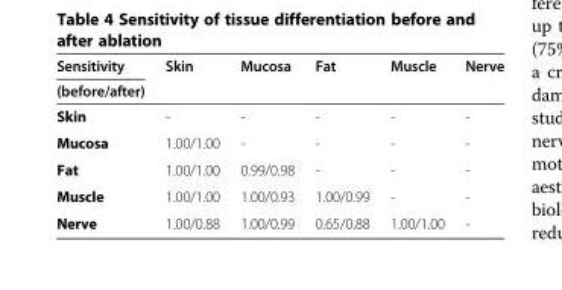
<table><thead><tr><td rowspan="2">Sensitivity (before/after)</td><td rowspan="2">Skin</td><td rowspan="2">Mucosa</td><td rowspan="2">Fat</td><td rowspan="2">Muscle</td><td rowspan="2">Nerve</td></tr><tr></tr></thead><tbody><tr><td>Skin</td><td>-</td><td>-</td><td>-</td><td>-</td><td>-</td></tr><tr><td>Mucosa</td><td>1.00/1.00</td><td>-</td><td>-</td><td>-</td><td>-</td></tr><tr><td>Fat</td><td>1.00/1.00</td><td>0.99/0.98</td><td>-</td><td>-</td><td>-</td></tr><tr><td>Muscle</td><td>1.00/1.00</td><td>1.00/0.93</td><td>1.00/0.99</td><td>-</td><td>-</td></tr><tr><td>Nerve</td><td>1.00/0.88</td><td>1.00/0.99</td><td>0.65/0.88</td><td>1.00/1.00</td><td>-</td></tr></tbody></table>